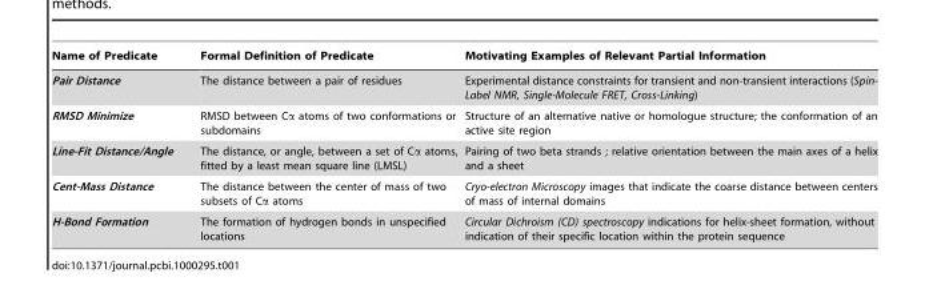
<table><thead><tr><td>Name of Predicate</td><td>Formal Definition of Predicate</td><td>Motivating Examples of Relevant Partial Information</td></tr></thead><tbody><tr><td>Pair Distance</td><td>The distance between a pair of residues</td><td>Experimental distance constraints for transient and non-transient interactions (Spin- Label NMR, Single-Molecule FRET, Cross-Linking)</td></tr><tr><td>RMSD Minimize</td><td>RMSD between Cα atoms of two conformations or subdomains</td><td>Structure of an alternative native or homologue structure; the conformation of an active site region</td></tr><tr><td>Line-Fit Distance/Angle</td><td>The distance, or angle, between a set of Cα atoms, fitted by a least mean square line (LMSL)</td><td>Pairing of two beta strands ; relative orientation between the main axes of a helix and a sheet</td></tr><tr><td>Cent-Mass Distance</td><td>The distance between the center of mass of two subsets of Cα atoms</td><td>Cryo-electron Microscopy images that indicate the coarse distance between centers of mass of internal domains</td></tr><tr><td>H-Bond Formation</td><td>The formation of hydrogen bonds in unspecified locations</td><td>Circular Dichroism (CD) spectroscopy indications for helix-sheet formation, without indication of their specific location within the protein sequence</td></tr></tbody></table>